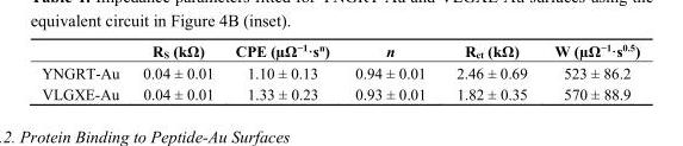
<table><thead><tr><td></td><td>R<sub>S</sub> (kΩ)</td><td>CPE (µΩ<sup>−1</sup>·s<sup>n</sup>)</td><td>n</td><td>R<sub>ct</sub> (kΩ)</td><td>W (µΩ<sup>−1</sup>·s<sup>0.5</sup>)</td></tr></thead><tbody><tr><td>YNGRT-Au</td><td>0.04 ± 0.01</td><td>1.10 ± 0.13</td><td>0.94 ± 0.01</td><td>2.46 ± 0.69</td><td>523 ± 86.2</td></tr><tr><td>VLGXE-Au</td><td>0.04 ± 0.01</td><td>1.33 ± 0.23</td><td>0.93 ± 0.01</td><td>1.82 ± 0.35</td><td>570 ± 88.9</td></tr></tbody></table>